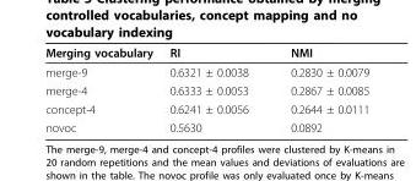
<table><thead><tr><td>Merging vocabulary</td><td>RI</td><td>NMI</td></tr></thead><tbody><tr><td>merge-9</td><td>0.6321 ± 0.0038</td><td>0.2830 ± 0.0079</td></tr><tr><td>merge-4</td><td>0.6333 ± 0.0053</td><td>0.2867 ± 0.0085</td></tr><tr><td>concept-4</td><td>0.6241 ± 0.0056</td><td>0.2644 ± 0.0111</td></tr><tr><td>novoc</td><td>0.5630</td><td>0.0892</td></tr></tbody></table>